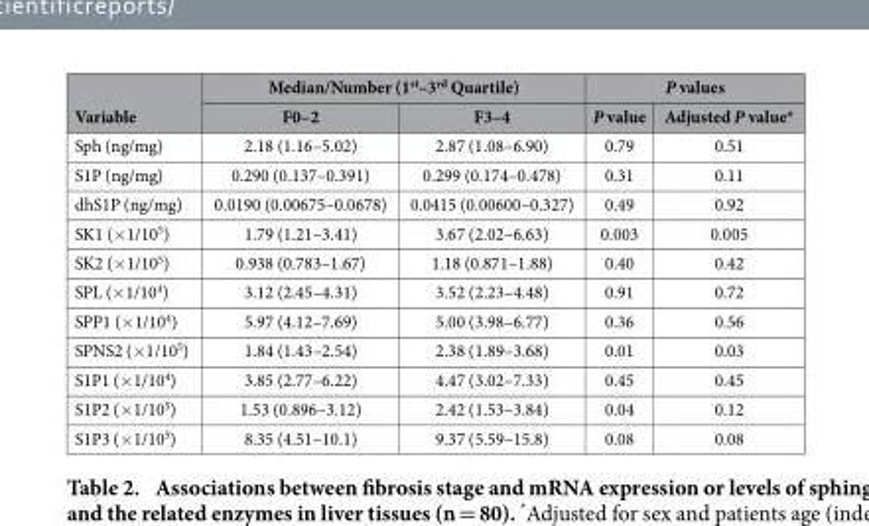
<table><thead><tr><td rowspan="2">Variable</td><td colspan="2">Median/Number (1<sup>st</sup>–3<sup>rd</sup> Quartile)</td><td colspan="2">P values</td></tr><tr><td>F0–2</td><td>F3–4</td><td>P value</td><td>Adjusted P value*</td></tr></thead><tbody><tr><td>Sph (ng/mg)</td><td>2.18 (1.16–5.02)</td><td>2.87 (1.08–6.90)</td><td>0.79</td><td>0.51</td></tr><tr><td>S1P (ng/mg)</td><td>0.290 (0.137–0.391)</td><td>0.299 (0.174–0.478)</td><td>0.31</td><td>0.11</td></tr><tr><td>dhS1P (ng/mg)</td><td>0.0190 (0.00675–0.0678)</td><td>0.0415 (0.00600–0.327)</td><td>0.49</td><td>0.92</td></tr><tr><td>SK1 (×1/10<sup>5</sup>)</td><td>1.79 (1.21–3.41)</td><td>3.67 (2.02–6.63)</td><td>0.003</td><td>0.005</td></tr><tr><td>SK2 (×1/10<sup>5</sup>)</td><td>0.938 (0.783–1.67)</td><td>1.18 (0.871–1.88)</td><td>0.40</td><td>0.42</td></tr><tr><td>SPL (×1/10<sup>4</sup>)</td><td>3.12 (2.45–4.31)</td><td>3.52 (2.23–4.48)</td><td>0.91</td><td>0.72</td></tr><tr><td>SPP1 (×1/10<sup>4</sup>)</td><td>5.97 (4.12–7.69)</td><td>5.00 (3.98–6.77)</td><td>0.36</td><td>0.56</td></tr><tr><td>SPNS2 (×1/10<sup>5</sup>)</td><td>1.84 (1.43–2.54)</td><td>2.38 (1.89–3.68)</td><td>0.01</td><td>0.03</td></tr><tr><td>S1P1 (×1/10<sup>4</sup>)</td><td>3.85 (2.77–6.22)</td><td>4.47 (3.02–7.33)</td><td>0.45</td><td>0.45</td></tr><tr><td>S1P2 (×1/10<sup>5</sup>)</td><td>1.53 (0.896–3.12)</td><td>2.42 (1.53–3.84)</td><td>0.04</td><td>0.12</td></tr><tr><td>S1P3 (×1/10<sup>5</sup>)</td><td>8.35 (4.51–10.1)</td><td>9.37 (5.59–15.8)</td><td>0.08</td><td>0.08</td></tr></tbody></table>